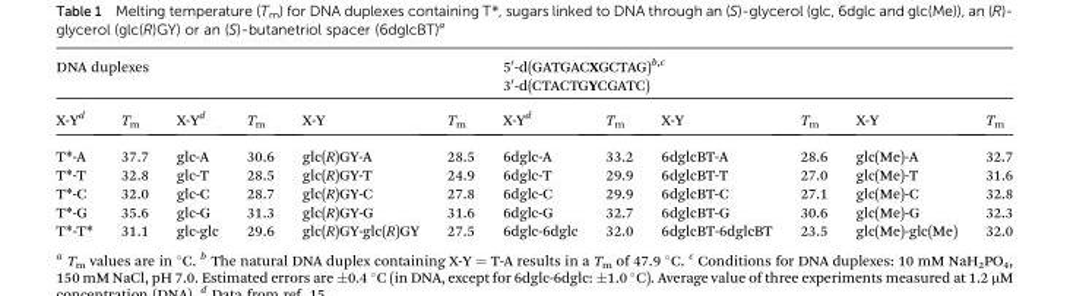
<table><thead><tr><td colspan="6">DNA duplexes</td><td colspan="6">5′-d(GATGACXGCTAG)<sup>b,c</sup> 3′-d(CTACTGYCGATC)</td></tr><tr><td>X-Y<sup>d</sup></td><td>T<sub>m</sub></td><td>X-Y<sup>d</sup></td><td>T<sub>m</sub></td><td>X-Y</td><td>T<sub>m</sub></td><td>X-Y<sup>d</sup></td><td>T<sub>m</sub></td><td>X-Y</td><td>T<sub>m</sub></td><td>X-Y</td><td>T<sub>m</sub></td></tr></thead><tbody><tr><td>T*-A</td><td>37.7</td><td>glc-A</td><td>30.6</td><td>glc(R)GY-A</td><td>28.5</td><td>6dglc-A</td><td>33.2</td><td>6dglcBT-A</td><td>28.6</td><td>glc(Me)-A</td><td>32.7</td></tr><tr><td>T*-T</td><td>32.8</td><td>glc-T</td><td>28.5</td><td>glc(R)GY-T</td><td>24.9</td><td>6dglc-T</td><td>29.9</td><td>6dglcBT-T</td><td>27.0</td><td>glc(Me)-T</td><td>31.6</td></tr><tr><td>T*-C</td><td>32.0</td><td>glc-C</td><td>28.7</td><td>glc(R)GY-C</td><td>27.8</td><td>6dglc-C</td><td>29.9</td><td>6dglcBT-C</td><td>27.1</td><td>glc(Me)-C</td><td>32.8</td></tr><tr><td>T*-G</td><td>35.6</td><td>glc-G</td><td>31.3</td><td>glc(R)GY-G</td><td>31.6</td><td>6dglc-G</td><td>32.7</td><td>6dglcBT-G</td><td>30.6</td><td>glc(Me)-G</td><td>32.3</td></tr><tr><td>T*-T*</td><td>31.1</td><td>glc-glc</td><td>29.6</td><td>glc(R)GY-glc(R)GY</td><td>27.5</td><td>6dglc-6dglc</td><td>32.0</td><td>6dglcBT-6dglcBT</td><td>23.5</td><td>glc(Me)-glc(Me)</td><td>32.0</td></tr></tbody></table>